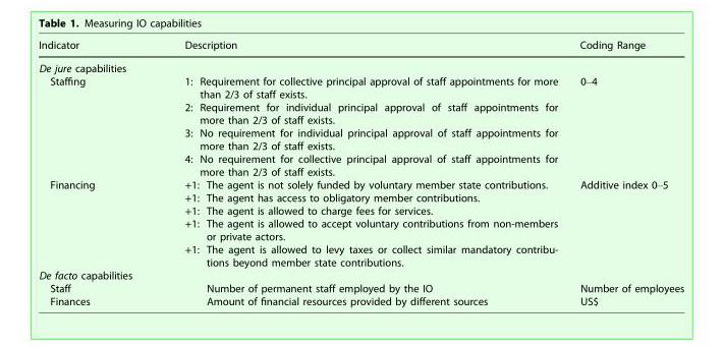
<table><thead><tr><td>Indicator</td><td>Description</td><td>Coding Range</td></tr></thead><tbody><tr><td colspan="3">De jure capabilities</td></tr><tr><td>Staffing</td><td>1: Requirement for collective principal approval of staff appointments for more than 2/3 of staff exists. 2: Requirement for individual principal approval of staff appointments for more than 2/3 of staff exists. 3: No requirement for individual principal approval of staff appointments for more than 2/3 of staff exists. 4: No requirement for collective principal approval of staff appointments for more than 2/3 of staff exists.</td><td>0–4</td></tr><tr><td>Financing</td><td>+1: The agent is not solely funded by voluntary member state contributions. +1: The agent has access to obligatory member contributions. +1: The agent is allowed to charge fees for services. +1: The agent is allowed to accept voluntary contributions from non-members or private actors. +1: The agent is allowed to levy taxes or collect similar mandatory contribu- tions beyond member state contributions.</td><td>Additive index 0–5</td></tr><tr><td colspan="3">De facto capabilities</td></tr><tr><td>Staff</td><td>Number of permanent staff employed by the IO</td><td>Number of employees</td></tr><tr><td>Finances</td><td>Amount of financial resources provided by different sources</td><td>US$</td></tr></tbody></table>